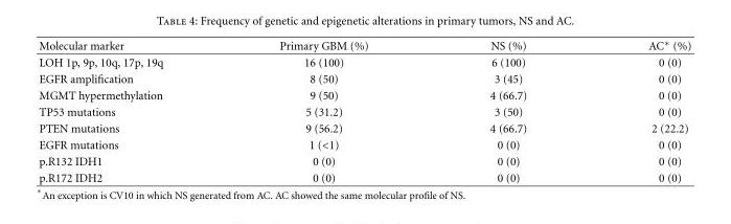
<table><thead><tr><td>Molecular marker</td><td>Primary GBM (%)</td><td>NS (%)</td><td>AC∗ (%)</td></tr></thead><tbody><tr><td>LOH 1p, 9p, 10q, 17p, 19q</td><td>16 (100)</td><td>6 (100)</td><td>0 (0)</td></tr><tr><td>EGFR amplification</td><td>8 (50)</td><td>3 (45)</td><td>0 (0)</td></tr><tr><td>MGMT hypermethylation</td><td>9 (50)</td><td>4 (66.7)</td><td>0 (0)</td></tr><tr><td>TP53 mutations</td><td>5 (31.2)</td><td>3 (50)</td><td>0 (0)</td></tr><tr><td>PTEN mutations</td><td>9 (56.2)</td><td>4 (66.7)</td><td>2 (22.2)</td></tr><tr><td>EGFR mutations</td><td>1 (&lt;1)</td><td>0 (0)</td><td>0 (0)</td></tr><tr><td>p.R132 IDH1</td><td>0 (0)</td><td>0 (0)</td><td>0 (0)</td></tr><tr><td>p.R172 IDH2</td><td>0 (0)</td><td>0 (0)</td><td>0 (0)</td></tr></tbody></table>